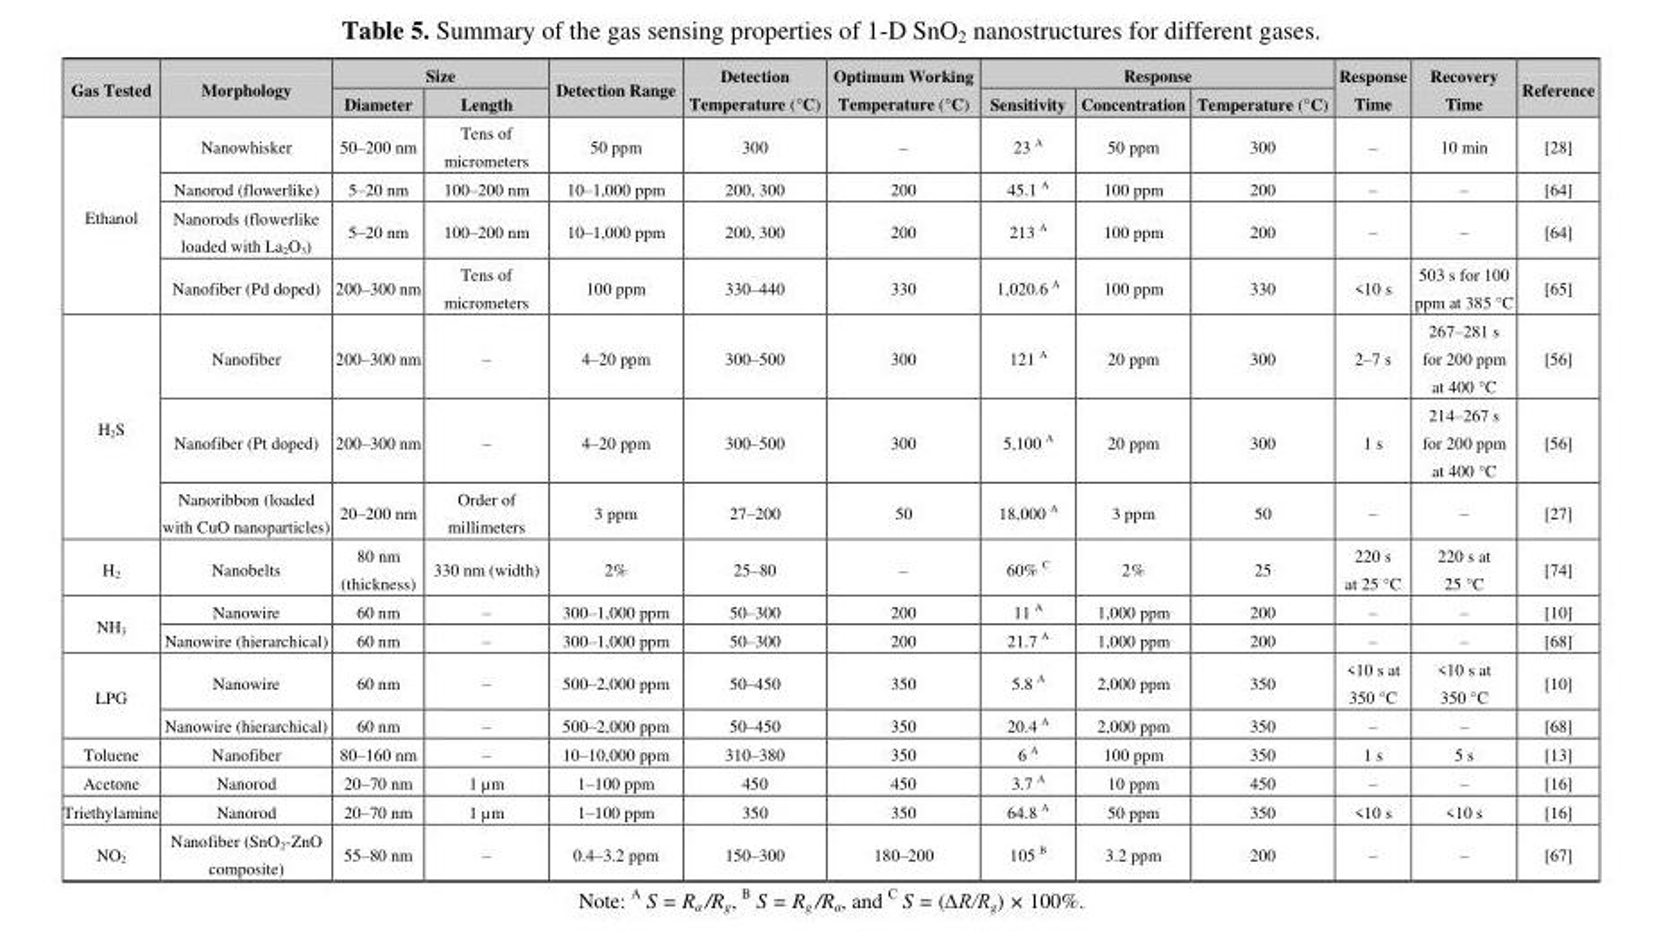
<table><thead><tr><td rowspan="2">Gas Tested</td><td rowspan="2">Morphology</td><td colspan="2">Size</td><td rowspan="2">Detection Range</td><td rowspan="2">Detection Temperature (°C)</td><td rowspan="2">Optimum Working Temperature (°C)</td><td colspan="3">Response</td><td rowspan="2">Response Time</td><td rowspan="2">Recovery Time</td><td rowspan="2">Reference</td></tr><tr><td>Diameter</td><td>Length</td><td>Sensitivity</td><td>Concentration</td><td>Temperature (°C)</td></tr></thead><tbody><tr><td rowspan="4">Ethanol</td><td>Nanowhisker</td><td>50–200 nm</td><td>Tens of micrometers</td><td>50 ppm</td><td>300</td><td>–</td><td>23 <sup>A</sup></td><td>50 ppm</td><td>300</td><td>–</td><td>10 min</td><td>[28]</td></tr><tr><td>Nanorod (flowerlike)</td><td>5–20 nm</td><td>100–200 nm</td><td>10–1,000 ppm</td><td>200, 300</td><td>200</td><td>45.1 <sup>A</sup></td><td>100 ppm</td><td>200</td><td>–</td><td>–</td><td>[64]</td></tr><tr><td>Nanorods (flowerlike loaded with La<sub>2</sub>O<sub>3</sub>)</td><td>5–20 nm</td><td>100–200 nm</td><td>10–1,000 ppm</td><td>200, 300</td><td>200</td><td>213 <sup>A</sup></td><td>100 ppm</td><td>200</td><td>–</td><td>–</td><td>[64]</td></tr><tr><td>Nanofiber (Pd doped)</td><td>200–300 nm</td><td>Tens of micrometers</td><td>100 ppm</td><td>330–440</td><td>330</td><td>1,020.6 <sup>A</sup></td><td>100 ppm</td><td>330</td><td>&lt;10 s</td><td>503 s for 100 ppm at 385 °C</td><td>[65]</td></tr><tr><td rowspan="3">H<sub>2</sub>S</td><td>Nanofiber</td><td>200–300 nm</td><td>–</td><td>4–20 ppm</td><td>300–500</td><td>300</td><td>121 <sup>A</sup></td><td>20 ppm</td><td>300</td><td>2–7 s</td><td>267–281 s for 200 ppm at 400 °C</td><td>[56]</td></tr><tr><td>Nanofiber (Pt doped)</td><td>200–300 nm</td><td>–</td><td>4–20 ppm</td><td>300–500</td><td>300</td><td>5,100 <sup>A</sup></td><td>20 ppm</td><td>300</td><td>1 s</td><td>214–267 s for 200 ppm at 400 °C</td><td>[56]</td></tr><tr><td>Nanoribbon (loaded with CuO nanoparticles)</td><td>20–200 nm</td><td>Order of millimeters</td><td>3 ppm</td><td>27–200</td><td>50</td><td>18,000 <sup>A</sup></td><td>3 ppm</td><td>50</td><td>–</td><td>–</td><td>[27]</td></tr><tr><td>H<sub>2</sub></td><td>Nanobelts</td><td>80 nm (thickness)</td><td>330 nm (width)</td><td>2%</td><td>25–80</td><td>–</td><td>60% <sup>C</sup></td><td>2%</td><td>25</td><td>220 s at 25 °C</td><td>220 s at 25 °C</td><td>[74]</td></tr><tr><td rowspan="2">NH<sub>3</sub></td><td>Nanowire</td><td>60 nm</td><td>–</td><td>300–1,000 ppm</td><td>50–300</td><td>200</td><td>11 <sup>A</sup></td><td>1,000 ppm</td><td>200</td><td>–</td><td>–</td><td>[10]</td></tr><tr><td>Nanowire (hierarchical)</td><td>60 nm</td><td>–</td><td>300–1,000 ppm</td><td>50–300</td><td>200</td><td>21.7 <sup>A</sup></td><td>1,000 ppm</td><td>200</td><td>–</td><td>–</td><td>[68]</td></tr><tr><td rowspan="2">LPG</td><td>Nanowire</td><td>60 nm</td><td>–</td><td>500–2,000 ppm</td><td>50–450</td><td>350</td><td>5.8 <sup>A</sup></td><td>2,000 ppm</td><td>350</td><td>&lt;10 s at 350 °C</td><td>&lt;10 s at 350 °C</td><td>[10]</td></tr><tr><td>Nanowire (hierarchical)</td><td>60 nm</td><td>–</td><td>500–2,000 ppm</td><td>50–450</td><td>350</td><td>20.4 <sup>A</sup></td><td>2,000 ppm</td><td>350</td><td>–</td><td>–</td><td>[68]</td></tr><tr><td>Toluene</td><td>Nanofiber</td><td>80–160 nm</td><td>–</td><td>10–10,000 ppm</td><td>310–380</td><td>350</td><td>6 <sup>A</sup></td><td>100 ppm</td><td>350</td><td>1 s</td><td>5 s</td><td>[13]</td></tr><tr><td>Acetone</td><td>Nanorod</td><td>20–70 nm</td><td>1 µm</td><td>1–100 ppm</td><td>450</td><td>450</td><td>3.7 <sup>A</sup></td><td>10 ppm</td><td>450</td><td>–</td><td>–</td><td>[16]</td></tr><tr><td>Triethylamine</td><td>Nanorod</td><td>20–70 nm</td><td>1 µm</td><td>1–100 ppm</td><td>350</td><td>350</td><td>64.8 <sup>A</sup></td><td>50 ppm</td><td>350</td><td>&lt;10 s</td><td>&lt;10 s</td><td>[16]</td></tr><tr><td>NO<sub>2</sub></td><td>Nanofiber (SnO<sub>2</sub>-ZnO composite)</td><td>55–80 nm</td><td>–</td><td>0.4–3.2 ppm</td><td>150–300</td><td>180–200</td><td>105 <sup>B</sup></td><td>3.2 ppm</td><td>200</td><td>–</td><td>–</td><td>[67]</td></tr></tbody></table>